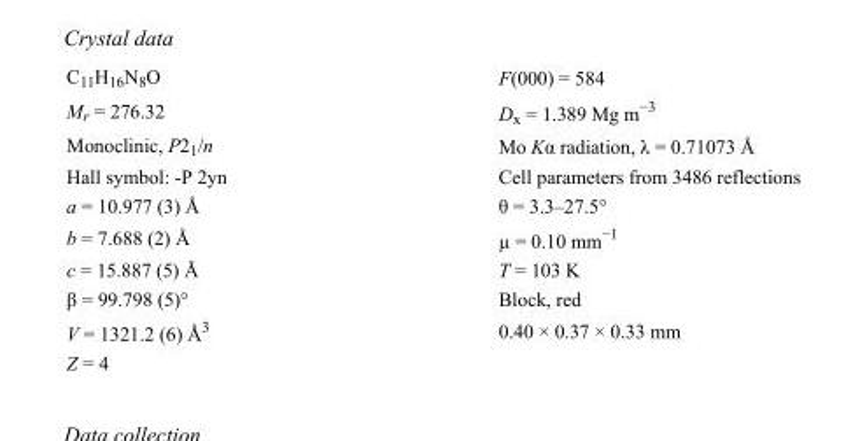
<table><tbody><tr><td>C<sub>11</sub>H<sub>16</sub>N<sub>8</sub>O</td><td>F(000) = 584</td></tr><tr><td>M<sub>r</sub> = 276.32</td><td>D<sub>x</sub> = 1.389 Mg m<sup>−3</sup></td></tr><tr><td>Monoclinic, P2<sub>1</sub>/n</td><td>Mo Kα radiation, λ = 0.71073 Å</td></tr><tr><td>Hall symbol: -P 2yn</td><td>Cell parameters from 3486 reflections</td></tr><tr><td>a = 10.977 (3) Å</td><td>θ = 3.3–27.5°</td></tr><tr><td>b = 7.688 (2) Å</td><td>µ = 0.10 mm<sup>−1</sup></td></tr><tr><td>c = 15.887 (5) Å</td><td>T = 103 K</td></tr><tr><td>β = 99.798 (5)°</td><td>Block, red</td></tr><tr><td>V = 1321.2 (6) Å<sup>3</sup></td><td>0.40 × 0.37 × 0.33 mm</td></tr><tr><td>Z = 4</td><td></td></tr></tbody></table>